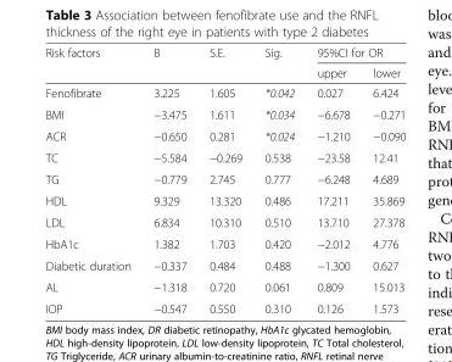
<table><thead><tr><td rowspan="2">Risk factors</td><td rowspan="2">B</td><td rowspan="2">S.E.</td><td rowspan="2">Sig.</td><td colspan="2">95%CI for OR</td></tr><tr><td>upper</td><td>lower</td></tr></thead><tbody><tr><td>Fenofibrate</td><td>3.225</td><td>1.605</td><td>*0.042</td><td>0.027</td><td>6.424</td></tr><tr><td>BMI</td><td>−3.475</td><td>1.611</td><td>*0.034</td><td>−6.678</td><td>−0.271</td></tr><tr><td>ACR</td><td>−0.650</td><td>0.281</td><td>*0.024</td><td>−1.210</td><td>−0.090</td></tr><tr><td>TC</td><td>−5.584</td><td>−0.269</td><td>0.538</td><td>−23.58</td><td>12.41</td></tr><tr><td>TG</td><td>−0.779</td><td>2.745</td><td>0.777</td><td>−6.248</td><td>4.689</td></tr><tr><td>HDL</td><td>9.329</td><td>13.320</td><td>0.486</td><td>17.211</td><td>35.869</td></tr><tr><td>LDL</td><td>6.834</td><td>10.310</td><td>0.510</td><td>13.710</td><td>27.378</td></tr><tr><td>HbA1c</td><td>1.382</td><td>1.703</td><td>0.420</td><td>−2.012</td><td>4.776</td></tr><tr><td>Diabetic duration</td><td>−0.337</td><td>0.484</td><td>0.488</td><td>−1.300</td><td>0.627</td></tr><tr><td>AL</td><td>−1.318</td><td>0.720</td><td>0.061</td><td>0.809</td><td>15.013</td></tr><tr><td>IOP</td><td>−0.547</td><td>0.550</td><td>0.310</td><td>0.126</td><td>1.573</td></tr></tbody></table>